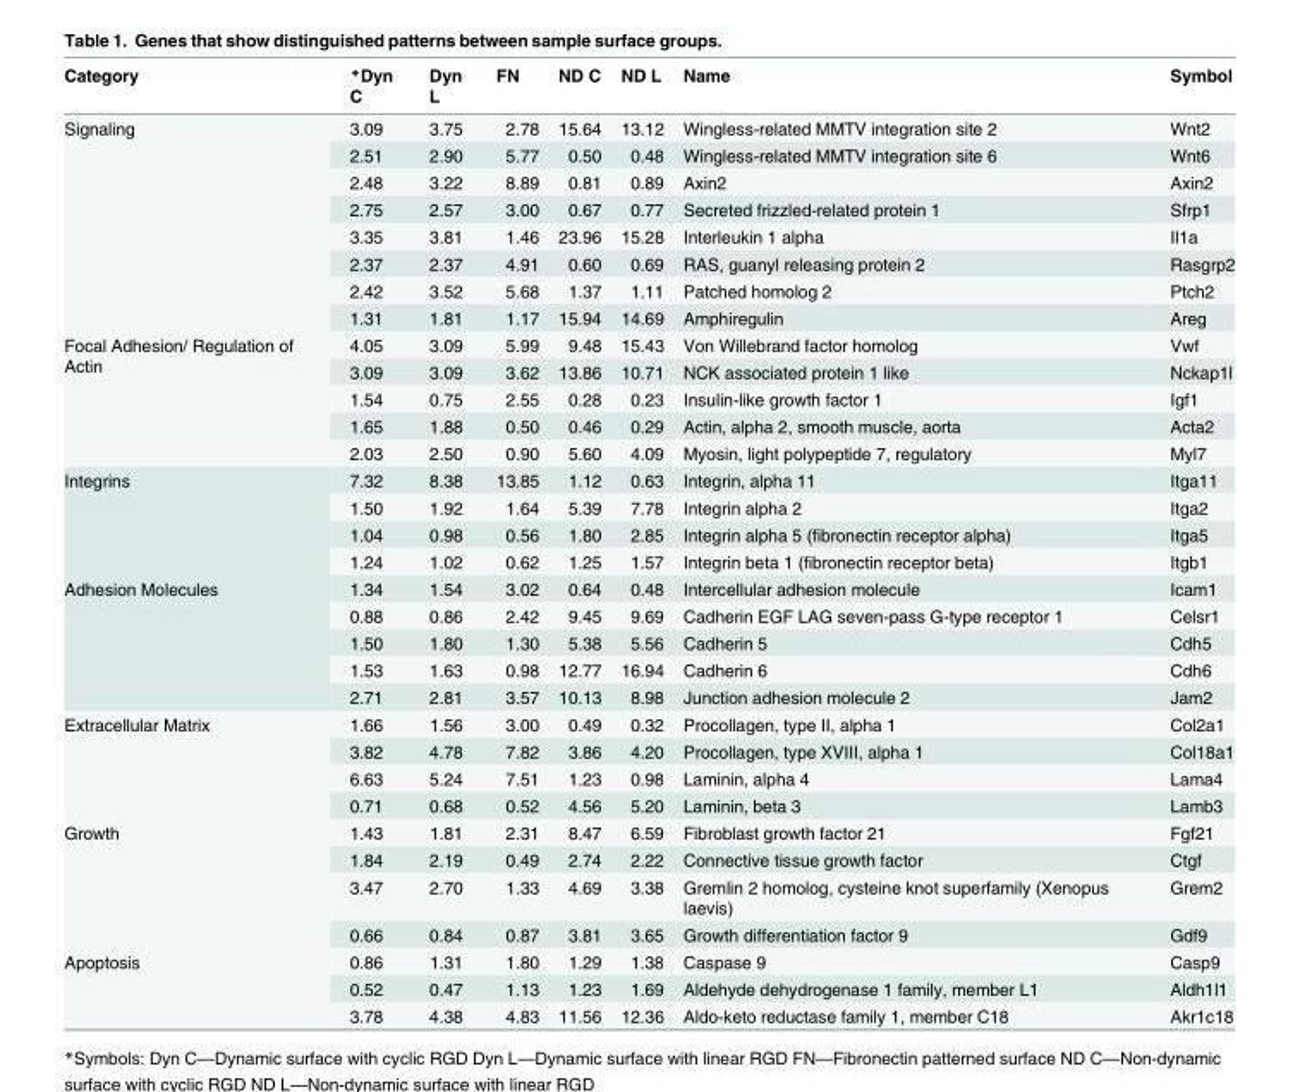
<table><thead><tr><td>Category</td><td>*Dyn C</td><td>Dyn L</td><td>FN</td><td>ND C</td><td>ND L</td><td>Name</td><td>Symbol</td></tr></thead><tbody><tr><td rowspan="8">Signaling</td><td>3.09</td><td>3.75</td><td>2.78</td><td>15.64</td><td>13.12</td><td>Wingless-related MMTV integration site 2</td><td>Wnt2</td></tr><tr><td>2.51</td><td>2.90</td><td>5.77</td><td>0.50</td><td>0.48</td><td>Wingless-related MMTV integration site 6</td><td>Wnt6</td></tr><tr><td>2.48</td><td>3.22</td><td>8.89</td><td>0.81</td><td>0.89</td><td>Axin2</td><td>Axin2</td></tr><tr><td>2.75</td><td>2.57</td><td>3.00</td><td>0.67</td><td>0.77</td><td>Secreted frizzled-related protein 1</td><td>Sfrp1</td></tr><tr><td>3.35</td><td>3.81</td><td>1.46</td><td>23.96</td><td>15.28</td><td>Interleukin 1 alpha</td><td>Il1a</td></tr><tr><td>2.37</td><td>2.37</td><td>4.91</td><td>0.60</td><td>0.69</td><td>RAS, guanyl releasing protein 2</td><td>Rasgrp2</td></tr><tr><td>2.42</td><td>3.52</td><td>5.68</td><td>1.37</td><td>1.11</td><td>Patched homolog 2</td><td>Ptch2</td></tr><tr><td>1.31</td><td>1.81</td><td>1.17</td><td>15.94</td><td>14.69</td><td>Amphiregulin</td><td>Areg</td></tr><tr><td rowspan="5">Focal Adhesion/ Regulation of Actin</td><td>4.05</td><td>3.09</td><td>5.99</td><td>9.48</td><td>15.43</td><td>Von Willebrand factor homolog</td><td>Vwf</td></tr><tr><td>3.09</td><td>3.09</td><td>3.62</td><td>13.86</td><td>10.71</td><td>NCK associated protein 1 like</td><td>Nckap1l</td></tr><tr><td>1.54</td><td>0.75</td><td>2.55</td><td>0.28</td><td>0.23</td><td>Insulin-like growth factor 1</td><td>Igf1</td></tr><tr><td>1.65</td><td>1.88</td><td>0.50</td><td>0.46</td><td>0.29</td><td>Actin, alpha 2, smooth muscle, aorta</td><td>Acta2</td></tr><tr><td>2.03</td><td>2.50</td><td>0.90</td><td>5.60</td><td>4.09</td><td>Myosin, light polypeptide 7, regulatory</td><td>Myl7</td></tr><tr><td rowspan="4">Integrins</td><td>7.32</td><td>8.38</td><td>13.85</td><td>1.12</td><td>0.63</td><td>Integrin, alpha 11</td><td>Itga11</td></tr><tr><td>1.50</td><td>1.92</td><td>1.64</td><td>5.39</td><td>7.78</td><td>Integrin alpha 2</td><td>Itga2</td></tr><tr><td>1.04</td><td>0.98</td><td>0.56</td><td>1.80</td><td>2.85</td><td>Integrin alpha 5 (fibronectin receptor alpha)</td><td>Itga5</td></tr><tr><td>1.24</td><td>1.02</td><td>0.62</td><td>1.25</td><td>1.57</td><td>Integrin beta 1 (fibronectin receptor beta)</td><td>Itgb1</td></tr><tr><td rowspan="5">Adhesion Molecules</td><td>1.34</td><td>1.54</td><td>3.02</td><td>0.64</td><td>0.48</td><td>Intercellular adhesion molecule</td><td>Icam1</td></tr><tr><td>0.88</td><td>0.86</td><td>2.42</td><td>9.45</td><td>9.69</td><td>Cadherin EGF LAG seven-pass G-type receptor 1</td><td>Celsr1</td></tr><tr><td>1.50</td><td>1.80</td><td>1.30</td><td>5.38</td><td>5.56</td><td>Cadherin 5</td><td>Cdh5</td></tr><tr><td>1.53</td><td>1.63</td><td>0.98</td><td>12.77</td><td>16.94</td><td>Cadherin 6</td><td>Cdh6</td></tr><tr><td>2.71</td><td>2.81</td><td>3.57</td><td>10.13</td><td>8.98</td><td>Junction adhesion molecule 2</td><td>Jam2</td></tr><tr><td rowspan="4">Extracellular Matrix</td><td>1.66</td><td>1.56</td><td>3.00</td><td>0.49</td><td>0.32</td><td>Procollagen, type II, alpha 1</td><td>Col2a1</td></tr><tr><td>3.82</td><td>4.78</td><td>7.82</td><td>3.86</td><td>4.20</td><td>Procollagen, type XVIII, alpha 1</td><td>Col18a1</td></tr><tr><td>6.63</td><td>5.24</td><td>7.51</td><td>1.23</td><td>0.98</td><td>Laminin, alpha 4</td><td>Lama4</td></tr><tr><td>0.71</td><td>0.68</td><td>0.52</td><td>4.56</td><td>5.20</td><td>Laminin, beta 3</td><td>Lamb3</td></tr><tr><td rowspan="4">Growth</td><td>1.43</td><td>1.81</td><td>2.31</td><td>8.47</td><td>6.59</td><td>Fibroblast growth factor 21</td><td>Fgf21</td></tr><tr><td>1.84</td><td>2.19</td><td>0.49</td><td>2.74</td><td>2.22</td><td>Connective tissue growth factor</td><td>Ctgf</td></tr><tr><td>3.47</td><td>2.70</td><td>1.33</td><td>4.69</td><td>3.38</td><td>Gremlin 2 homolog, cysteine knot superfamily (Xenopus laevis)</td><td>Grem2</td></tr><tr><td>0.66</td><td>0.84</td><td>0.87</td><td>3.81</td><td>3.65</td><td>Growth differentiation factor 9</td><td>Gdf9</td></tr><tr><td rowspan="3">Apoptosis</td><td>0.86</td><td>1.31</td><td>1.80</td><td>1.29</td><td>1.38</td><td>Caspase 9</td><td>Casp9</td></tr><tr><td>0.52</td><td>0.47</td><td>1.13</td><td>1.23</td><td>1.69</td><td>Aldehyde dehydrogenase 1 family, member L1</td><td>Aldh1l1</td></tr><tr><td>3.78</td><td>4.38</td><td>4.83</td><td>11.56</td><td>12.36</td><td>Aldo-keto reductase family 1, member C18</td><td>Akr1c18</td></tr></tbody></table>